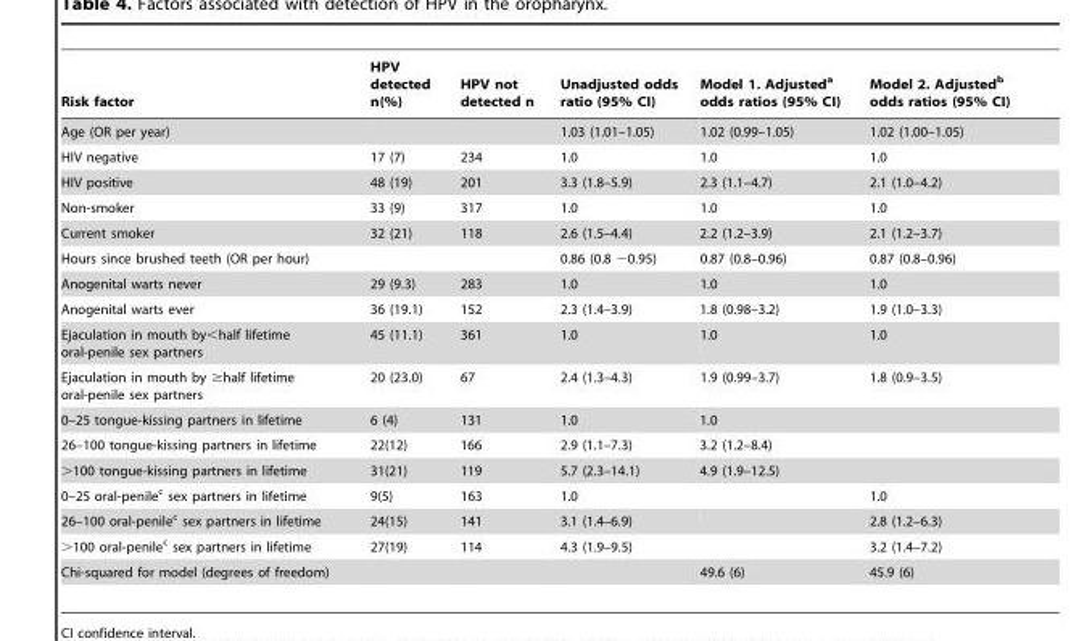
<table><thead><tr><td>Risk factor</td><td>HPV detected n(%)</td><td>HPV not detected n</td><td>Unadjusted odds ratio (95% CI)</td><td>Model 1. Adjusted<sup>a</sup> odds ratios (95% CI)</td><td>Model 2. Adjusted<sup>b</sup> odds ratios (95% CI)</td></tr></thead><tbody><tr><td>Age (OR per year)</td><td></td><td></td><td>1.03 (1.01–1.05)</td><td>1.02 (0.99–1.05)</td><td>1.02 (1.00–1.05)</td></tr><tr><td>HIV negative</td><td>17 (7)</td><td>234</td><td>1.0</td><td>1.0</td><td>1.0</td></tr><tr><td>HIV positive</td><td>48 (19)</td><td>201</td><td>3.3 (1.8–5.9)</td><td>2.3 (1.1–4.7)</td><td>2.1 (1.0–4.2)</td></tr><tr><td>Non-smoker</td><td>33 (9)</td><td>317</td><td>1.0</td><td>1.0</td><td>1.0</td></tr><tr><td>Current smoker</td><td>32 (21)</td><td>118</td><td>2.6 (1.5–4.4)</td><td>2.2 (1.2–3.9)</td><td>2.1 (1.2–3.7)</td></tr><tr><td>Hours since brushed teeth (OR per hour)</td><td></td><td></td><td>0.86 (0.8 −0.95)</td><td>0.87 (0.8–0.96)</td><td>0.87 (0.8–0.96)</td></tr><tr><td>Anogenital warts never</td><td>29 (9.3)</td><td>283</td><td>1.0</td><td>1.0</td><td>1.0</td></tr><tr><td>Anogenital warts ever</td><td>36 (19.1)</td><td>152</td><td>2.3 (1.4–3.9)</td><td>1.8 (0.98–3.2)</td><td>1.9 (1.0–3.3)</td></tr><tr><td>Ejaculation in mouth by&lt;half lifetime oral-penile sex partners</td><td>45 (11.1)</td><td>361</td><td>1.0</td><td>1.0</td><td>1.0</td></tr><tr><td>Ejaculation in mouth by ≥half lifetime oral-penile sex partners</td><td>20 (23.0)</td><td>67</td><td>2.4 (1.3–4.3)</td><td>1.9 (0.99–3.7)</td><td>1.8 (0.9–3.5)</td></tr><tr><td>0–25 tongue-kissing partners in lifetime</td><td>6 (4)</td><td>131</td><td>1.0</td><td>1.0</td><td></td></tr><tr><td>26–100 tongue-kissing partners in lifetime</td><td>22(12)</td><td>166</td><td>2.9 (1.1–7.3)</td><td>3.2 (1.2–8.4)</td><td></td></tr><tr><td>&gt;100 tongue-kissing partners in lifetime</td><td>31(21)</td><td>119</td><td>5.7 (2.3–14.1)</td><td>4.9 (1.9–12.5)</td><td></td></tr><tr><td>0–25 oral-penile<sup>c</sup> sex partners in lifetime</td><td>9(5)</td><td>163</td><td>1.0</td><td></td><td>1.0</td></tr><tr><td>26–100 oral-penile<sup>c</sup> sex partners in lifetime</td><td>24(15)</td><td>141</td><td>3.1 (1.4–6.9)</td><td></td><td>2.8 (1.2–6.3)</td></tr><tr><td>&gt;100 oral-penile<sup>c</sup> sex partners in lifetime</td><td>27(19)</td><td>114</td><td>4.3 (1.9–9.5)</td><td></td><td>3.2 (1.4–7.2)</td></tr><tr><td>Chi-squared for model (degrees of freedom)</td><td></td><td></td><td></td><td>49.6 (6)</td><td>45.9 (6)</td></tr></tbody></table>